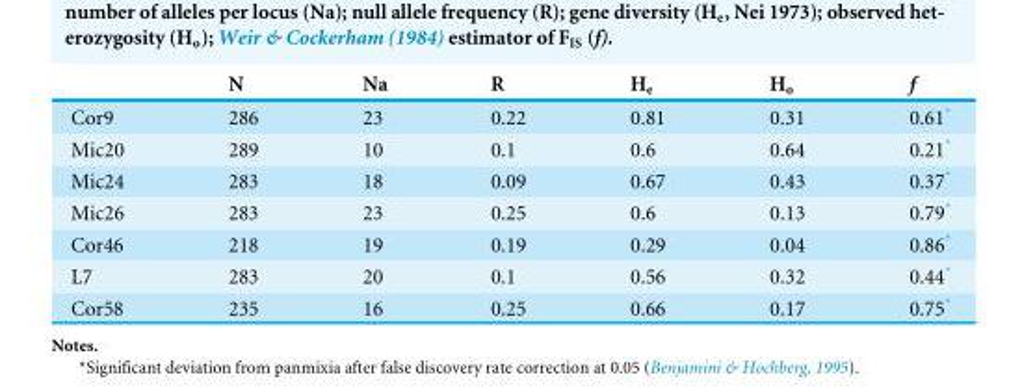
<table><thead><tr><td></td><td>N</td><td>Na</td><td>R</td><td>H<sub>e</sub></td><td>H<sub>o</sub></td><td>f</td></tr></thead><tbody><tr><td>Cor9</td><td>286</td><td>23</td><td>0.22</td><td>0.81</td><td>0.31</td><td>0.61*</td></tr><tr><td>Mic20</td><td>289</td><td>10</td><td>0.1</td><td>0.6</td><td>0.64</td><td>0.21*</td></tr><tr><td>Mic24</td><td>283</td><td>18</td><td>0.09</td><td>0.67</td><td>0.43</td><td>0.37*</td></tr><tr><td>Mic26</td><td>283</td><td>23</td><td>0.25</td><td>0.6</td><td>0.13</td><td>0.79*</td></tr><tr><td>Cor46</td><td>218</td><td>19</td><td>0.19</td><td>0.29</td><td>0.04</td><td>0.86*</td></tr><tr><td>L7</td><td>283</td><td>20</td><td>0.1</td><td>0.56</td><td>0.32</td><td>0.44*</td></tr><tr><td>Cor58</td><td>235</td><td>16</td><td>0.25</td><td>0.66</td><td>0.17</td><td>0.75*</td></tr></tbody></table>